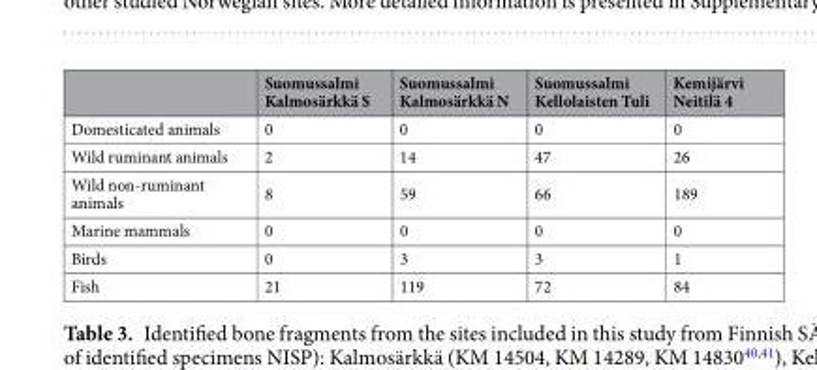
<table><thead><tr><td></td><td>Suomussalmi Kalmosärkkä S</td><td>Suomussalmi Kalmosärkkä N</td><td>Suomussalmi Kellolaisten Tuli</td><td>Kemijärvi Neitilä 4</td></tr></thead><tbody><tr><td>Domesticated animals</td><td>0</td><td>0</td><td>0</td><td>0</td></tr><tr><td>Wild ruminant animals</td><td>2</td><td>14</td><td>47</td><td>26</td></tr><tr><td>Wild non-ruminant animals</td><td>8</td><td>59</td><td>66</td><td>189</td></tr><tr><td>Marine mammals</td><td>0</td><td>0</td><td>0</td><td>0</td></tr><tr><td>Birds</td><td>0</td><td>3</td><td>3</td><td>1</td></tr><tr><td>Fish</td><td>21</td><td>119</td><td>72</td><td>84</td></tr></tbody></table>